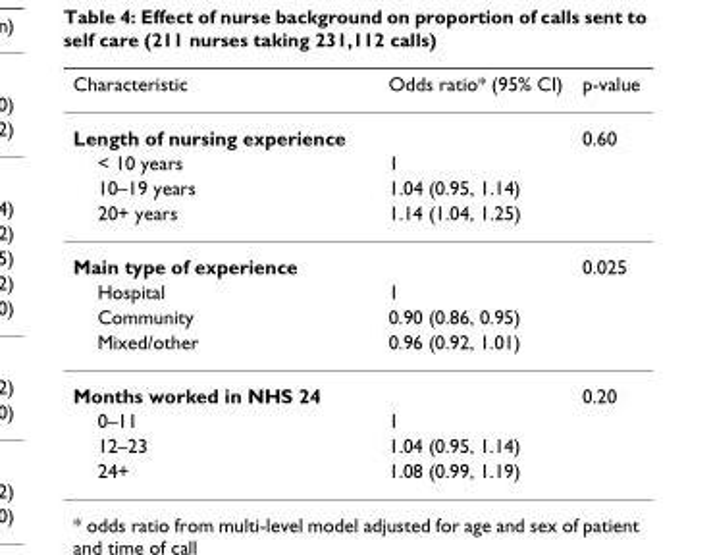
<table><thead><tr><td>Characteristic</td><td>Odds ratio* (95% CI)</td><td>p-value</td></tr></thead><tbody><tr><td>Length of nursing experience</td><td></td><td>0.60</td></tr><tr><td>&lt; 10 years</td><td>1</td><td></td></tr><tr><td>10–19 years</td><td>1.04 (0.95, 1.14)</td><td></td></tr><tr><td>20+ years</td><td>1.14 (1.04, 1.25)</td><td></td></tr><tr><td>Main type of experience</td><td></td><td>0.025</td></tr><tr><td>Hospital</td><td>1</td><td></td></tr><tr><td>Community</td><td>0.90 (0.86, 0.95)</td><td></td></tr><tr><td>Mixed/other</td><td>0.96 (0.92, 1.01)</td><td></td></tr><tr><td>Months worked in NHS 24</td><td></td><td>0.20</td></tr><tr><td>0–11</td><td>1</td><td></td></tr><tr><td>12–23</td><td>1.04 (0.95, 1.14)</td><td></td></tr><tr><td>24+</td><td>1.08 (0.99, 1.19)</td><td></td></tr></tbody></table>